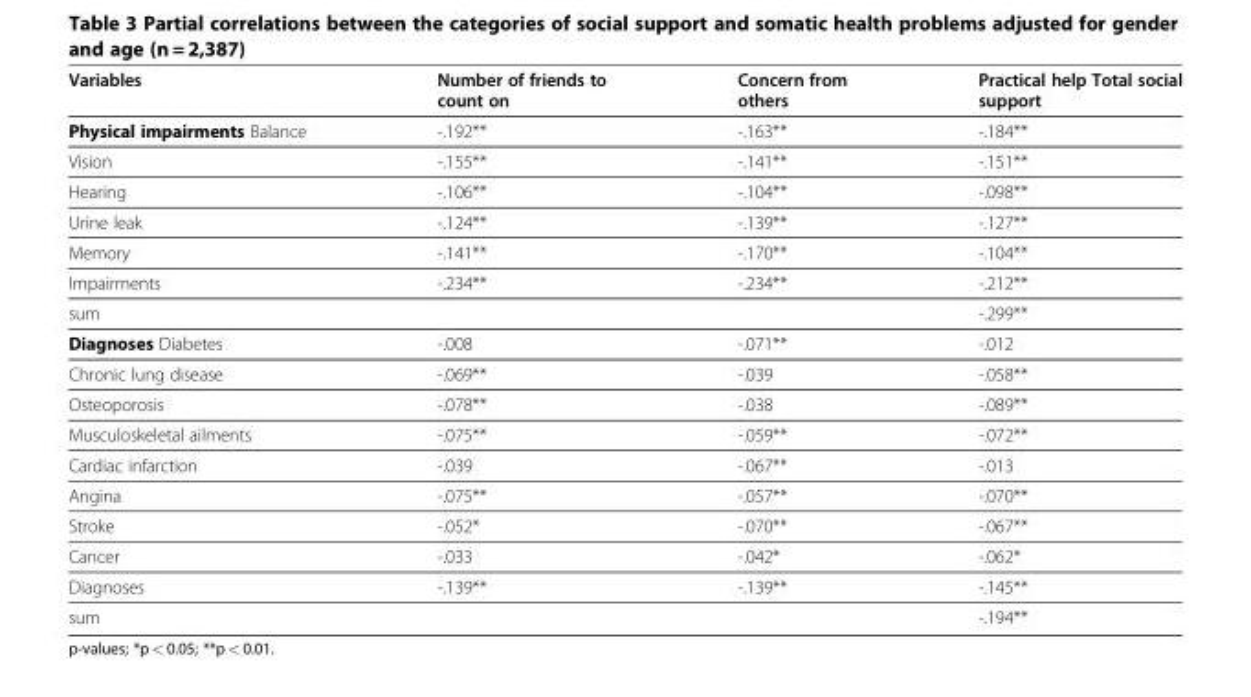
<table><thead><tr><td>Variables</td><td>Number of friends to count on</td><td>Concern from others</td><td>Practical help Total social support</td></tr></thead><tbody><tr><td>Physical impairments Balance</td><td>-.192**</td><td>-.163**</td><td>-.184**</td></tr><tr><td>Vision</td><td>-.155**</td><td>-.141**</td><td>-.151**</td></tr><tr><td>Hearing</td><td>-.106**</td><td>-.104**</td><td>-.098**</td></tr><tr><td>Urine leak</td><td>-.124**</td><td>-.139**</td><td>-.127**</td></tr><tr><td>Memory</td><td>-.141**</td><td>-.170**</td><td>-.104**</td></tr><tr><td>Impairments</td><td>-.234**</td><td>-.234**</td><td>-.212**</td></tr><tr><td>sum</td><td></td><td></td><td>-.299**</td></tr><tr><td>Diagnoses Diabetes</td><td>-.008</td><td>-.071**</td><td>-.012</td></tr><tr><td>Chronic lung disease</td><td>-.069**</td><td>-.039</td><td>-.058**</td></tr><tr><td>Osteoporosis</td><td>-.078**</td><td>-.038</td><td>-.089**</td></tr><tr><td>Musculoskeletal ailments</td><td>-.075**</td><td>-.059**</td><td>-.072**</td></tr><tr><td>Cardiac infarction</td><td>-.039</td><td>-.067**</td><td>-.013</td></tr><tr><td>Angina</td><td>-.075**</td><td>-.057**</td><td>-.070**</td></tr><tr><td>Stroke</td><td>-.052*</td><td>-.070**</td><td>-.067**</td></tr><tr><td>Cancer</td><td>-.033</td><td>-.042*</td><td>-.062*</td></tr><tr><td>Diagnoses</td><td>-.139**</td><td>-.139**</td><td>-.145**</td></tr><tr><td>sum</td><td></td><td></td><td>-.194**</td></tr></tbody></table>